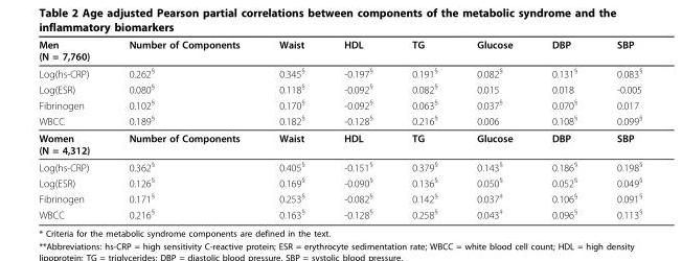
<table><thead><tr><td>Men (N = 7,760)</td><td>Number of Components</td><td>Waist</td><td>HDL</td><td>TG</td><td>Glucose</td><td>DBP</td><td>SBP</td></tr></thead><tbody><tr><td>Log(hs-CRP)</td><td>0.262<sup>§</sup></td><td>0.345<sup>§</sup></td><td>-0.197<sup>§</sup></td><td>0.191<sup>§</sup></td><td>0.082<sup>§</sup></td><td>0.131<sup>§</sup></td><td>0.083<sup>§</sup></td></tr><tr><td>Log(ESR)</td><td>0.080<sup>§</sup></td><td>0.118<sup>§</sup></td><td>-0.092<sup>§</sup></td><td>0.082<sup>§</sup></td><td>0.015</td><td>0.018</td><td>-0.005</td></tr><tr><td>Fibrinogen</td><td>0.102<sup>§</sup></td><td>0.170<sup>§</sup></td><td>-0.092<sup>§</sup></td><td>0.063<sup>§</sup></td><td>0.037<sup>§</sup></td><td>0.070<sup>§</sup></td><td>0.017</td></tr><tr><td>WBCC</td><td>0.189<sup>§</sup></td><td>0.182<sup>§</sup></td><td>-0.128<sup>§</sup></td><td>0.216<sup>§</sup></td><td>0.006</td><td>0.108<sup>§</sup></td><td>0.099<sup>§</sup></td></tr><tr><td>Women (N = 4,312)</td><td>Number of Components</td><td>Waist</td><td>HDL</td><td>TG</td><td>Glucose</td><td>DBP</td><td>SBP</td></tr><tr><td>Log(hs-CRP)</td><td>0.362<sup>§</sup></td><td>0.405<sup>§</sup></td><td>-0.151<sup>§</sup></td><td>0.379<sup>§</sup></td><td>0.143<sup>§</sup></td><td>0.186<sup>§</sup></td><td>0.198<sup>§</sup></td></tr><tr><td>Log(ESR)</td><td>0.126<sup>§</sup></td><td>0.169<sup>§</sup></td><td>-0.090<sup>§</sup></td><td>0.136<sup>§</sup></td><td>0.050<sup>§</sup></td><td>0.052<sup>§</sup></td><td>0.049<sup>§</sup></td></tr><tr><td>Fibrinogen</td><td>0.171<sup>§</sup></td><td>0.253<sup>§</sup></td><td>-0.082<sup>§</sup></td><td>0.142<sup>§</sup></td><td>0.037<sup>‡</sup></td><td>0.106<sup>§</sup></td><td>0.091<sup>§</sup></td></tr><tr><td>WBCC</td><td>0.216<sup>§</sup></td><td>0.163<sup>§</sup></td><td>-0.128<sup>§</sup></td><td>0.258<sup>§</sup></td><td>0.043<sup>‡</sup></td><td>0.096<sup>§</sup></td><td>0.113<sup>§</sup></td></tr></tbody></table>